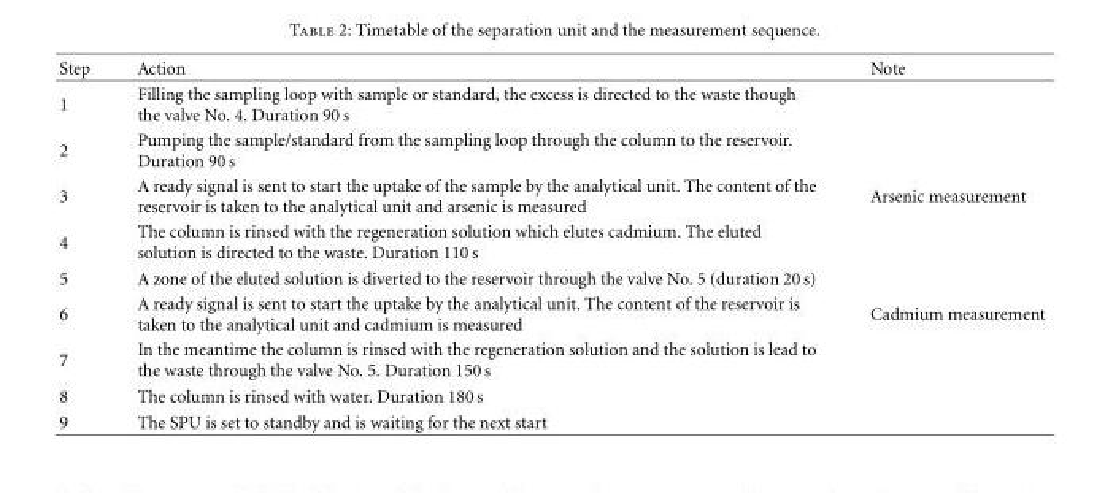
<table><thead><tr><td>Step</td><td>Action</td><td>Note</td></tr></thead><tbody><tr><td>1</td><td>Filling the sampling loop with sample or standard, the excess is directed to the waste though the valve No. 4. Duration 90 s</td><td></td></tr><tr><td>2</td><td>Pumping the sample/standard from the sampling loop through the column to the reservoir. Duration 90 s</td><td></td></tr><tr><td>3</td><td>A ready signal is sent to start the uptake of the sample by the analytical unit. The content of the reservoir is taken to the analytical unit and arsenic is measured</td><td>Arsenic measurement</td></tr><tr><td>4</td><td>The column is rinsed with the regeneration solution which elutes cadmium. The eluted solution is directed to the waste. Duration 110 s</td><td></td></tr><tr><td>5</td><td>A zone of the eluted solution is diverted to the reservoir through the valve No. 5 (duration 20 s)</td><td></td></tr><tr><td>6</td><td>A ready signal is sent to start the uptake by the analytical unit. The content of the reservoir is taken to the analytical unit and cadmium is measured</td><td>Cadmium measurement</td></tr><tr><td>7</td><td>In the meantime the column is rinsed with the regeneration solution and the solution is lead to the waste through the valve No. 5. Duration 150 s</td><td></td></tr><tr><td>8</td><td>The column is rinsed with water. Duration 180 s</td><td></td></tr><tr><td>9</td><td>The SPU is set to standby and is waiting for the next start</td><td></td></tr></tbody></table>